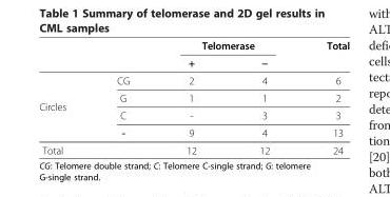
<table><thead><tr><td rowspan="2"></td><td rowspan="2"></td><td colspan="2">Telomerase</td><td rowspan="2">Total</td></tr><tr><td>+</td><td>−</td></tr></thead><tbody><tr><td rowspan="4">Circles</td><td>CG</td><td>2</td><td>4</td><td>6</td></tr><tr><td>G</td><td>1</td><td>1</td><td>2</td></tr><tr><td>C</td><td>-</td><td>3</td><td>3</td></tr><tr><td>-</td><td>9</td><td>4</td><td>13</td></tr><tr><td>Total</td><td></td><td>12</td><td>12</td><td>24</td></tr></tbody></table>